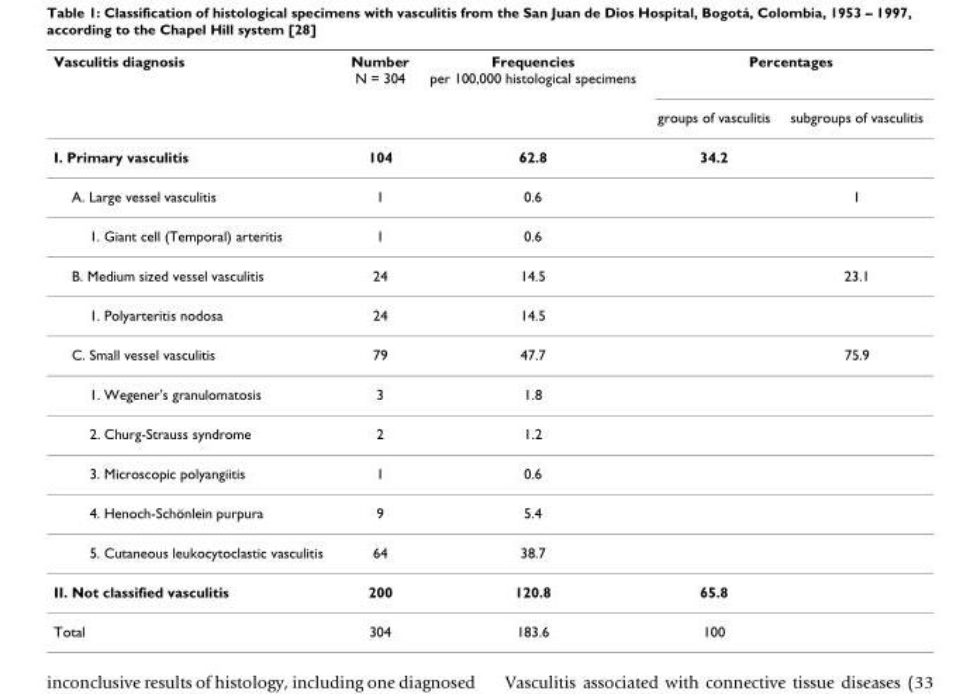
<table><thead><tr><td rowspan="2">Vasculitis diagnosis</td><td rowspan="2">Number N = 304</td><td rowspan="2">Frequencies per 100,000 histological specimens</td><td colspan="2">Percentages</td></tr><tr><td>groups of vasculitis</td><td>subgroups of vasculitis</td></tr></thead><tbody><tr><td>I. Primary vasculitis</td><td>104</td><td>62.8</td><td>34.2</td><td></td></tr><tr><td>A. Large vessel vasculitis</td><td>1</td><td>0.6</td><td></td><td>1</td></tr><tr><td>1. Giant cell (Temporal) arteritis</td><td>1</td><td>0.6</td><td></td><td></td></tr><tr><td>B. Medium sized vessel vasculitis</td><td>24</td><td>14.5</td><td></td><td>23.1</td></tr><tr><td>1. Polyarteritis nodosa</td><td>24</td><td>14.5</td><td></td><td></td></tr><tr><td>C. Small vessel vasculitis</td><td>79</td><td>47.7</td><td></td><td>75.9</td></tr><tr><td>1. Wegener&#x27;s granulomatosis</td><td>3</td><td>1.8</td><td></td><td></td></tr><tr><td>2. Churg-Strauss syndrome</td><td>2</td><td>1.2</td><td></td><td></td></tr><tr><td>3. Microscopic polyangiitis</td><td>1</td><td>0.6</td><td></td><td></td></tr><tr><td>4. Henoch-Schönlein purpura</td><td>9</td><td>5.4</td><td></td><td></td></tr><tr><td>5. Cutaneous leukocytoclastic vasculitis</td><td>64</td><td>38.7</td><td></td><td></td></tr><tr><td>II. Not classified vasculitis</td><td>200</td><td>120.8</td><td>65.8</td><td></td></tr><tr><td>Total</td><td>304</td><td>183.6</td><td>100</td><td></td></tr></tbody></table>